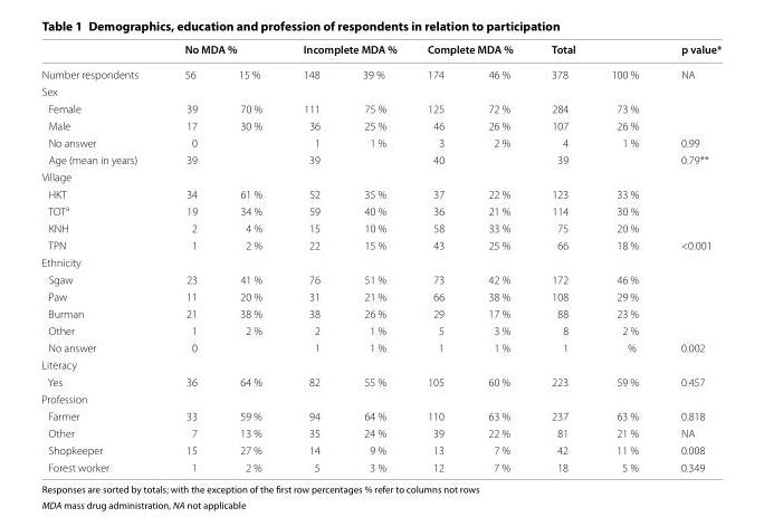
<table><thead><tr><td rowspan="2">Number respondents</td><td colspan="2">No MDA %</td><td colspan="2">Incomplete MDA %</td><td colspan="2">Complete MDA %</td><td colspan="2">Total</td><td rowspan="2">p value* NA</td></tr><tr><td>56</td><td>15 %</td><td>148</td><td>39 %</td><td>174</td><td>46 %</td><td>378</td><td>100 %</td></tr></thead><tbody><tr><td colspan="10">Sex</td></tr><tr><td>Female</td><td>39</td><td>70 %</td><td>111</td><td>75 %</td><td>125</td><td>72 %</td><td>284</td><td>73 %</td><td></td></tr><tr><td>Male</td><td>17</td><td>30 %</td><td>36</td><td>25 %</td><td>46</td><td>26 %</td><td>107</td><td>26 %</td><td></td></tr><tr><td>No answer</td><td>0</td><td></td><td>1</td><td>1 %</td><td>3</td><td>2 %</td><td>4</td><td>1 %</td><td>0.99</td></tr><tr><td>Age (mean in years)</td><td>39</td><td></td><td>39</td><td></td><td>40</td><td></td><td>39</td><td></td><td>0.79**</td></tr><tr><td colspan="10">Village</td></tr><tr><td>HKT</td><td>34</td><td>61 %</td><td>52</td><td>35 %</td><td>37</td><td>22 %</td><td>123</td><td>33 %</td><td></td></tr><tr><td>TOT<sup>a</sup></td><td>19</td><td>34 %</td><td>59</td><td>40 %</td><td>36</td><td>21 %</td><td>114</td><td>30 %</td><td></td></tr><tr><td>KNH</td><td>2</td><td>4 %</td><td>15</td><td>10 %</td><td>58</td><td>33 %</td><td>75</td><td>20 %</td><td></td></tr><tr><td>TPN</td><td>1</td><td>2 %</td><td>22</td><td>15 %</td><td>43</td><td>25 %</td><td>66</td><td>18 %</td><td>&lt;0.001</td></tr><tr><td colspan="10">Ethnicity</td></tr><tr><td>Sgaw</td><td>23</td><td>41 %</td><td>76</td><td>51 %</td><td>73</td><td>42 %</td><td>172</td><td>46 %</td><td></td></tr><tr><td>Paw</td><td>11</td><td>20 %</td><td>31</td><td>21 %</td><td>66</td><td>38 %</td><td>108</td><td>29 %</td><td></td></tr><tr><td>Burman</td><td>21</td><td>38 %</td><td>38</td><td>26 %</td><td>29</td><td>17 %</td><td>88</td><td>23 %</td><td></td></tr><tr><td>Other</td><td>1</td><td>2 %</td><td>2</td><td>1 %</td><td>5</td><td>3 %</td><td>8</td><td>2 %</td><td></td></tr><tr><td>No answer</td><td>0</td><td></td><td>1</td><td>1 %</td><td>1</td><td>1 %</td><td>1</td><td>%</td><td>0.002</td></tr><tr><td colspan="10">Literacy</td></tr><tr><td>Yes</td><td>36</td><td>64 %</td><td>82</td><td>55 %</td><td>105</td><td>60 %</td><td>223</td><td>59 %</td><td>0.457</td></tr><tr><td colspan="10">Profession</td></tr><tr><td>Farmer</td><td>33</td><td>59 %</td><td>94</td><td>64 %</td><td>110</td><td>63 %</td><td>237</td><td>63 %</td><td>0.818</td></tr><tr><td>Other</td><td>7</td><td>13 %</td><td>35</td><td>24 %</td><td>39</td><td>22 %</td><td>81</td><td>21 %</td><td>NA</td></tr><tr><td>Shopkeeper</td><td>15</td><td>27 %</td><td>14</td><td>9 %</td><td>13</td><td>7 %</td><td>42</td><td>11 %</td><td>0.008</td></tr><tr><td>Forest worker</td><td>1</td><td>2 %</td><td>5</td><td>3 %</td><td>12</td><td>7 %</td><td>18</td><td>5 %</td><td>0.349</td></tr></tbody></table>